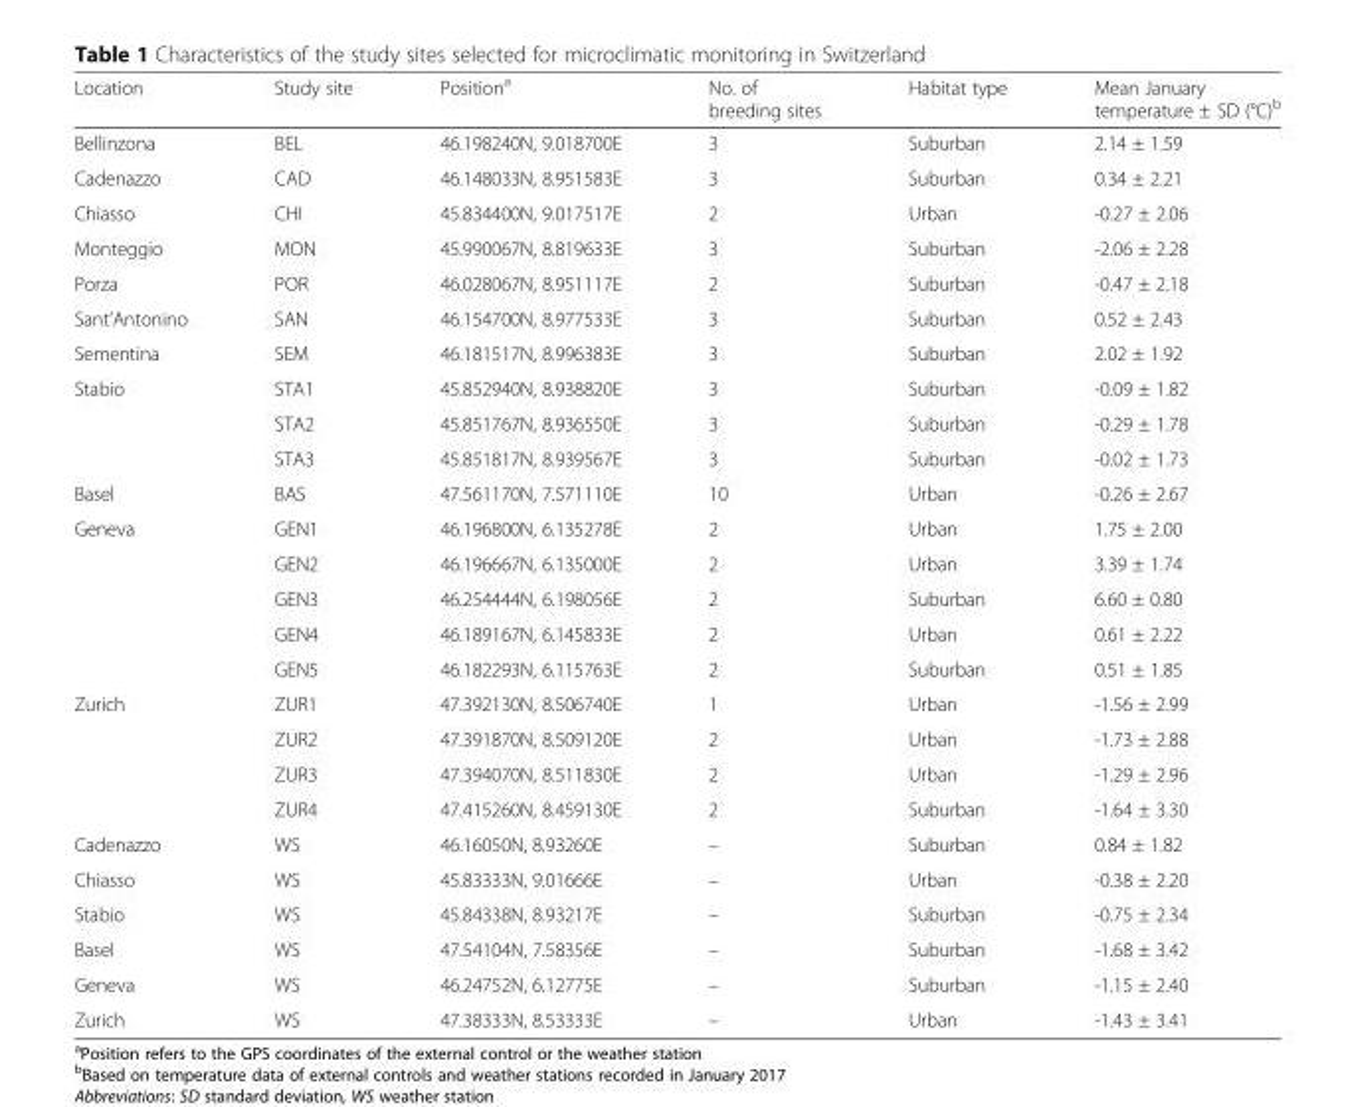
<table><thead><tr><td>Location</td><td>Study site</td><td>Position<sup>a</sup></td><td>No. of breeding sites</td><td>Habitat type</td><td>Mean January temperature ± SD (°C)<sup>b</sup></td></tr></thead><tbody><tr><td>Bellinzona</td><td>BEL</td><td>46.198240N, 9.018700E</td><td>3</td><td>Suburban</td><td>2.14 ± 1.59</td></tr><tr><td>Cadenazzo</td><td>CAD</td><td>46.148033N, 8.951583E</td><td>3</td><td>Suburban</td><td>0.34 ± 2.21</td></tr><tr><td>Chiasso</td><td>CHI</td><td>45.834400N, 9.017517E</td><td>2</td><td>Urban</td><td>-0.27 ± 2.06</td></tr><tr><td>Monteggio</td><td>MON</td><td>45.990067N, 8.819633E</td><td>3</td><td>Suburban</td><td>-2.06 ± 2.28</td></tr><tr><td>Porza</td><td>POR</td><td>46.028067N, 8.951117E</td><td>2</td><td>Suburban</td><td>-0.47 ± 2.18</td></tr><tr><td>Sant’Antonino</td><td>SAN</td><td>46.154700N, 8.977533E</td><td>3</td><td>Suburban</td><td>0.52 ± 2.43</td></tr><tr><td>Sementina</td><td>SEM</td><td>46.181517N, 8.996383E</td><td>3</td><td>Suburban</td><td>2.02 ± 1.92</td></tr><tr><td rowspan="3">Stabio</td><td>STA1</td><td>45.852940N, 8.938820E</td><td>3</td><td>Suburban</td><td>-0.09 ± 1.82</td></tr><tr><td>STA2</td><td>45.851767N, 8.936550E</td><td>3</td><td>Suburban</td><td>-0.29 ± 1.78</td></tr><tr><td>STA3</td><td>45.851817N, 8.939567E</td><td>3</td><td>Suburban</td><td>-0.02 ± 1.73</td></tr><tr><td>Basel</td><td>BAS</td><td>47.561170N, 7.571110E</td><td>10</td><td>Urban</td><td>-0.26 ± 2.67</td></tr><tr><td rowspan="5">Geneva</td><td>GEN1</td><td>46.196800N, 6.135278E</td><td>2</td><td>Urban</td><td>1.75 ± 2.00</td></tr><tr><td>GEN2</td><td>46.196667N, 6.135000E</td><td>2</td><td>Urban</td><td>3.39 ± 1.74</td></tr><tr><td>GEN3</td><td>46.254444N, 6.198056E</td><td>2</td><td>Suburban</td><td>6.60 ± 0.80</td></tr><tr><td>GEN4</td><td>46.189167N, 6.145833E</td><td>2</td><td>Urban</td><td>0.61 ± 2.22</td></tr><tr><td>GEN5</td><td>46.182293N, 6.115763E</td><td>2</td><td>Suburban</td><td>0.51 ± 1.85</td></tr><tr><td rowspan="4">Zurich</td><td>ZUR1</td><td>47.392130N, 8.506740E</td><td>1</td><td>Urban</td><td>-1.56 ± 2.99</td></tr><tr><td>ZUR2</td><td>47.391870N, 8.509120E</td><td>2</td><td>Urban</td><td>-1.73 ± 2.88</td></tr><tr><td>ZUR3</td><td>47.394070N, 8.511830E</td><td>2</td><td>Urban</td><td>-1.29 ± 2.96</td></tr><tr><td>ZUR4</td><td>47.415260N, 8.459130E</td><td>2</td><td>Suburban</td><td>-1.64 ± 3.30</td></tr><tr><td>Cadenazzo</td><td>WS</td><td>46.16050N, 8.93260E</td><td>–</td><td>Suburban</td><td>0.84 ± 1.82</td></tr><tr><td>Chiasso</td><td>WS</td><td>45.83333N, 9.01666E</td><td>–</td><td>Urban</td><td>-0.38 ± 2.20</td></tr><tr><td>Stabio</td><td>WS</td><td>45.84338N, 8.93217E</td><td>–</td><td>Suburban</td><td>-0.75 ± 2.34</td></tr><tr><td>Basel</td><td>WS</td><td>47.54104N, 7.58356E</td><td>–</td><td>Suburban</td><td>-1.68 ± 3.42</td></tr><tr><td>Geneva</td><td>WS</td><td>46.24752N, 6.12775E</td><td>–</td><td>Suburban</td><td>-1.15 ± 2.40</td></tr><tr><td>Zurich</td><td>WS</td><td>47.38333N, 8.53333E</td><td>–</td><td>Urban</td><td>-1.43 ± 3.41</td></tr></tbody></table>